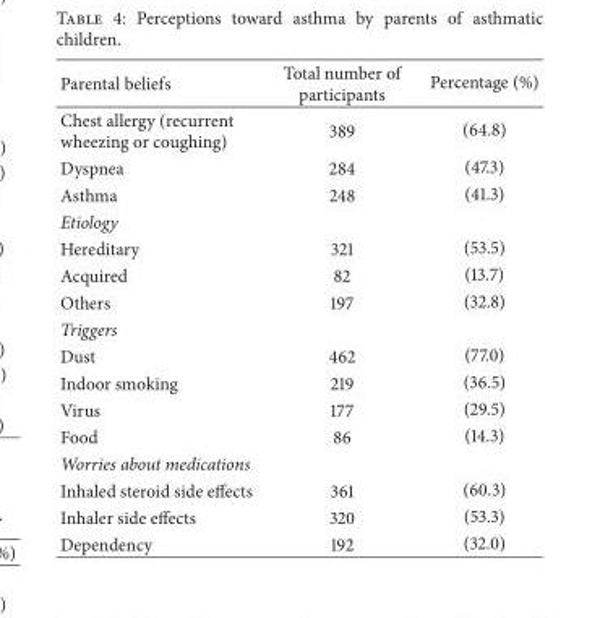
<table><thead><tr><td>Parental beliefs</td><td>Total number of participants</td><td>Percentage (%)</td></tr></thead><tbody><tr><td>Chest allergy (recurrent wheezing or coughing)</td><td>389</td><td>(64.8)</td></tr><tr><td>Dyspnea</td><td>284</td><td>(47.3)</td></tr><tr><td>Asthma</td><td>248</td><td>(41.3)</td></tr><tr><td colspan="3">Etiology</td></tr><tr><td>Hereditary</td><td>321</td><td>(53.5)</td></tr><tr><td>Acquired</td><td>82</td><td>(13.7)</td></tr><tr><td>Others</td><td>197</td><td>(32.8)</td></tr><tr><td colspan="3">Triggers</td></tr><tr><td>Dust</td><td>462</td><td>(77.0)</td></tr><tr><td>Indoor smoking</td><td>219</td><td>(36.5)</td></tr><tr><td>Virus</td><td>177</td><td>(29.5)</td></tr><tr><td>Food</td><td>86</td><td>(14.3)</td></tr><tr><td colspan="3">Worries about medications</td></tr><tr><td>Inhaled steroid side effects</td><td>361</td><td>(60.3)</td></tr><tr><td>Inhaler side effects</td><td>320</td><td>(53.3)</td></tr><tr><td>Dependency</td><td>192</td><td>(32.0)</td></tr></tbody></table>